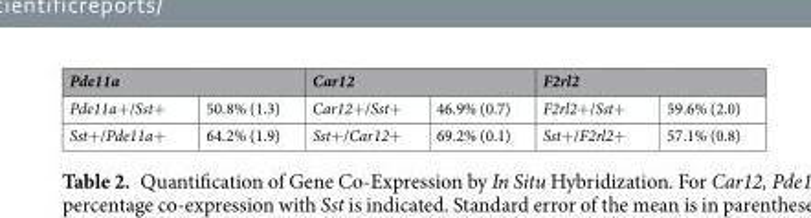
<table><thead><tr><td colspan="2">Pde11a</td><td colspan="2">Car12</td><td colspan="2">F2rl2</td></tr><tr><td>Pde11a+/Sst+</td><td>50.8% (1.3)</td><td>Car12+/Sst+</td><td>46.9% (0.7)</td><td>F2rl2+/Sst+</td><td>59.6% (2.0)</td></tr></thead><tbody><tr><td>Sst+/Pde11a+</td><td>64.2% (1.9)</td><td>Sst+/Car12+</td><td>69.2% (0.1)</td><td>Sst+/F2rl2+</td><td>57.1% (0.8)</td></tr></tbody></table>